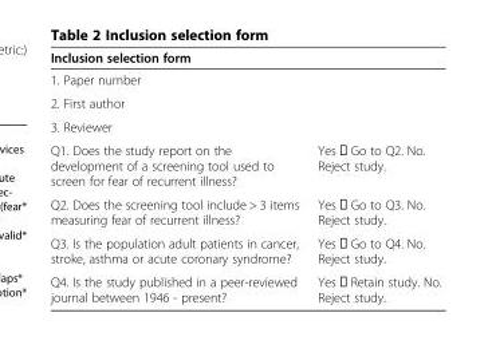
<table><thead><tr><td colspan="2">Inclusion selection form</td></tr><tr><td>1. Paper number</td><td></td></tr></thead><tbody><tr><td colspan="2">2. First author</td></tr><tr><td colspan="2">3. Reviewer</td></tr><tr><td>Q1. Does the study report on the development of a screening tool used to screen for fear of recurrent illness?</td><td>Yes ⎕ Go to Q2. No. Reject study.</td></tr><tr><td>Q2. Does the screening tool include &gt; 3 items measuring fear of recurrent illness?</td><td>Yes ⎕ Go to Q3. No. Reject study.</td></tr><tr><td>Q3. Is the population adult patients in cancer, stroke, asthma or acute coronary syndrome?</td><td>Yes ⎕ Go to Q4. No. Reject study.</td></tr><tr><td>Q4. Is the study published in a peer-reviewed journal between 1946 - present?</td><td>Yes ⎕ Retain study. No. Reject study.</td></tr></tbody></table>